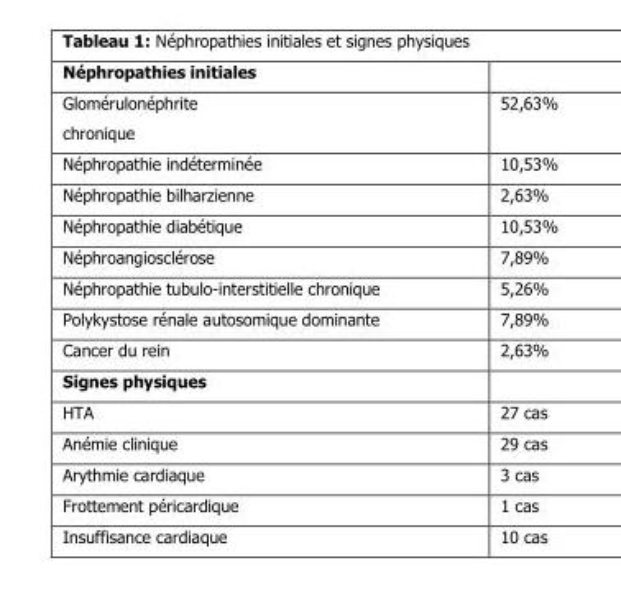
<table><tbody><tr><td colspan="2">Néphropathies initiales</td></tr><tr><td>Glomérulonéphrite chronique</td><td>52,63%</td></tr><tr><td>Néphropathie indéterminée</td><td>10,53%</td></tr><tr><td>Néphropathie bilharzienne</td><td>2,63%</td></tr><tr><td>Néphropathie diabétique</td><td>10,53%</td></tr><tr><td>Néphroangiosclérose</td><td>7,89%</td></tr><tr><td>Néphropathie tubulo-interstitielle chronique</td><td>5,26%</td></tr><tr><td>Polykystose rénale autosomique dominante</td><td>7,89%</td></tr><tr><td>Cancer du rein</td><td>2,63%</td></tr><tr><td colspan="2">Signes physiques</td></tr><tr><td>HTA</td><td>27 cas</td></tr><tr><td>Anémie clinique</td><td>29 cas</td></tr><tr><td>Arythmie cardiaque</td><td>3 cas</td></tr><tr><td>Frottement péricardique</td><td>1 cas</td></tr><tr><td>Insuffisance cardiaque</td><td>10 cas</td></tr></tbody></table>